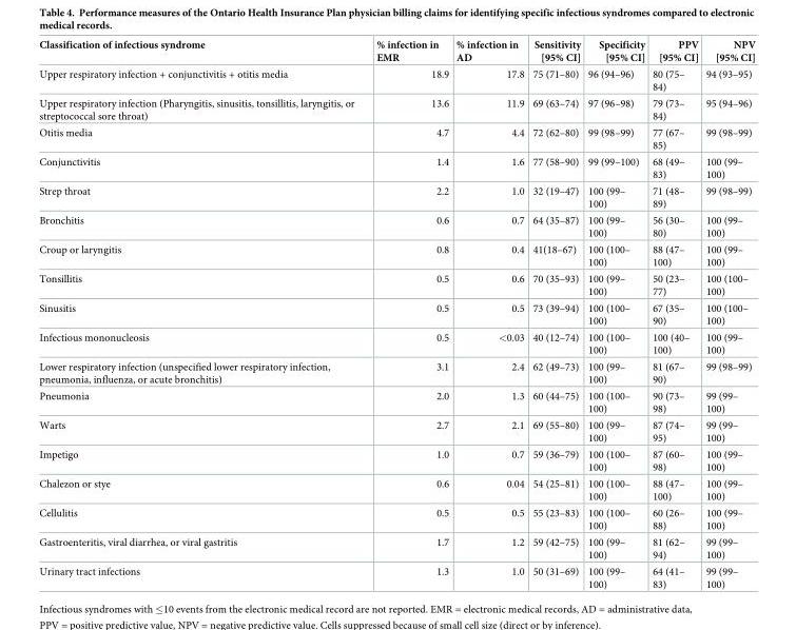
<table><thead><tr><td>Classification of infectious syndrome</td><td>% infection in EMR</td><td>% infection in AD</td><td>Sensitivity [95% CI]</td><td>Specificity [95% CI]</td><td>PPV [95% CI]</td><td>NPV [95% CI]</td></tr></thead><tbody><tr><td>Upper respiratory infection + conjunctivitis + otitis media</td><td>18.9</td><td>17.8</td><td>75 (71–80)</td><td>96 (94–96)</td><td>80 (75– 84)</td><td>94 (93–95)</td></tr><tr><td>Upper respiratory infection (Pharyngitis, sinusitis, tonsillitis, laryngitis, or streptococcal sore throat)</td><td>13.6</td><td>11.9</td><td>69 (63–74)</td><td>97 (96–98)</td><td>79 (73– 84)</td><td>95 (94–96)</td></tr><tr><td>Otitis media</td><td>4.7</td><td>4.4</td><td>72 (62–80)</td><td>99 (98–99)</td><td>77 (67– 85)</td><td>99 (98–99)</td></tr><tr><td>Conjunctivitis</td><td>1.4</td><td>1.6</td><td>77 (58–90)</td><td>99 (99–100)</td><td>68 (49– 83)</td><td>100 (99– 100)</td></tr><tr><td>Strep throat</td><td>2.2</td><td>1.0</td><td>32 (19–47)</td><td>100 (99– 100)</td><td>71 (48– 89)</td><td>99 (98–99)</td></tr><tr><td>Bronchitis</td><td>0.6</td><td>0.7</td><td>64 (35–87)</td><td>100 (99– 100)</td><td>56 (30– 80)</td><td>100 (99– 100)</td></tr><tr><td>Croup or laryngitis</td><td>0.8</td><td>0.4</td><td>41(18–67)</td><td>100 (100– 100)</td><td>88 (47– 100)</td><td>100 (99– 100)</td></tr><tr><td>Tonsillitis</td><td>0.5</td><td>0.6</td><td>70 (35–93)</td><td>100 (99– 100)</td><td>50 (23– 77)</td><td>100 (100– 100)</td></tr><tr><td>Sinusitis</td><td>0.5</td><td>0.5</td><td>73 (39–94)</td><td>100 (100– 100)</td><td>67 (35– 90)</td><td>100 (100– 100)</td></tr><tr><td>Infectious mononucleosis</td><td>0.5</td><td>&lt;0.03</td><td>40 (12–74)</td><td>100 (100– 100)</td><td>100 (40– 100)</td><td>100 (99– 100)</td></tr><tr><td>Lower respiratory infection (unspecified lower respiratory infection, pneumonia, influenza, or acute bronchitis)</td><td>3.1</td><td>2.4</td><td>62 (49–73)</td><td>100 (99– 100)</td><td>81 (67– 90)</td><td>99 (98–99)</td></tr><tr><td>Pneumonia</td><td>2.0</td><td>1.3</td><td>60 (44–75)</td><td>100 (100– 100)</td><td>90 (73– 98)</td><td>99 (99– 100)</td></tr><tr><td>Warts</td><td>2.7</td><td>2.1</td><td>69 (55–80)</td><td>100 (99– 100)</td><td>87 (74– 95)</td><td>99 (99– 100)</td></tr><tr><td>Impetigo</td><td>1.0</td><td>0.7</td><td>59 (36–79)</td><td>100 (100– 100)</td><td>87 (60– 98)</td><td>100 (99– 100)</td></tr><tr><td>Chalezon or stye</td><td>0.6</td><td>0.04</td><td>54 (25–81)</td><td>100 (100– 100)</td><td>88 (47– 100)</td><td>100 (99– 100)</td></tr><tr><td>Cellulitis</td><td>0.5</td><td>0.5</td><td>55 (23–83)</td><td>100 (100– 100)</td><td>60 (26– 88)</td><td>100 (99– 100)</td></tr><tr><td>Gastroenteritis, viral diarrhea, or viral gastritis</td><td>1.7</td><td>1.2</td><td>59 (42–75)</td><td>100 (99– 100)</td><td>81 (62– 94)</td><td>99 (99– 100)</td></tr><tr><td>Urinary tract infections</td><td>1.3</td><td>1.0</td><td>50 (31–69)</td><td>100 (99– 100)</td><td>64 (41– 83)</td><td>99 (99– 100)</td></tr></tbody></table>